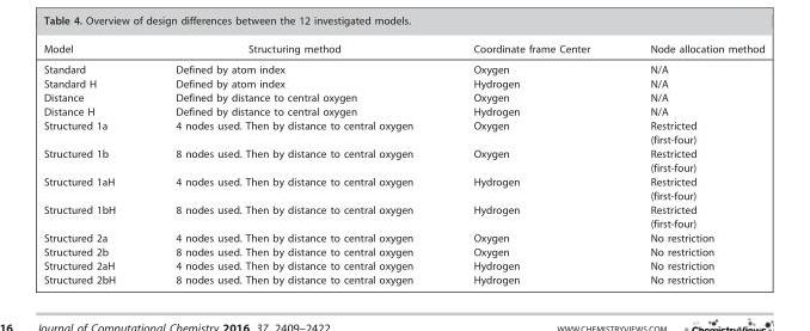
<table><thead><tr><td>Model</td><td>Structuring method</td><td>Coordinate frame Center</td><td>Node allocation method</td></tr></thead><tbody><tr><td>Standard</td><td>Defined by atom index</td><td>Oxygen</td><td>N/A</td></tr><tr><td>Standard H</td><td>Defined by atom index</td><td>Hydrogen</td><td>N/A</td></tr><tr><td>Distance</td><td>Defined by distance to central oxygen</td><td>Oxygen</td><td>N/A</td></tr><tr><td>Distance H</td><td>Defined by distance to central oxygen</td><td>Hydrogen</td><td>N/A</td></tr><tr><td>Structured 1a</td><td>4 nodes used. Then by distance to central oxygen</td><td>Oxygen</td><td>Restricted (first-four)</td></tr><tr><td>Structured 1b</td><td>8 nodes used. Then by distance to central oxygen</td><td>Oxygen</td><td>Restricted (first-four)</td></tr><tr><td>Structured 1aH</td><td>4 nodes used. Then by distance to central oxygen</td><td>Hydrogen</td><td>Restricted (first-four)</td></tr><tr><td>Structured 1bH</td><td>8 nodes used. Then by distance to central oxygen</td><td>Hydrogen</td><td>Restricted (first-four)</td></tr><tr><td>Structured 2a</td><td>4 nodes used. Then by distance to central oxygen</td><td>Oxygen</td><td>No restriction</td></tr><tr><td>Structured 2b</td><td>8 nodes used. Then by distance to central oxygen</td><td>Oxygen</td><td>No restriction</td></tr><tr><td>Structured 2aH</td><td>4 nodes used. Then by distance to central oxygen</td><td>Hydrogen</td><td>No restriction</td></tr><tr><td>Structured 2bH</td><td>8 nodes used. Then by distance to central oxygen</td><td>Hydrogen</td><td>No restriction</td></tr></tbody></table>